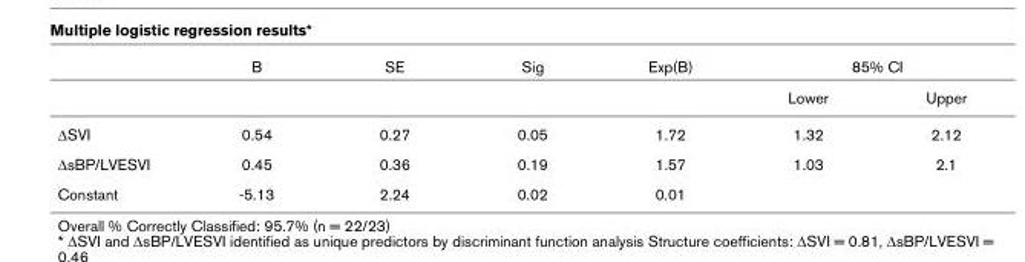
<table><thead><tr><td rowspan="2"></td><td rowspan="2">B</td><td rowspan="2">SE</td><td rowspan="2">Sig</td><td rowspan="2">Exp(B)</td><td colspan="2">85% CI</td></tr><tr><td>Lower</td><td>Upper</td></tr></thead><tbody><tr><td>ΔSVI</td><td>0.54</td><td>0.27</td><td>0.05</td><td>1.72</td><td>1.32</td><td>2.12</td></tr><tr><td>ΔsBP/LVESVI</td><td>0.45</td><td>0.36</td><td>0.19</td><td>1.57</td><td>1.03</td><td>2.1</td></tr><tr><td>Constant</td><td>-5.13</td><td>2.24</td><td>0.02</td><td>0.01</td><td></td><td></td></tr></tbody></table>